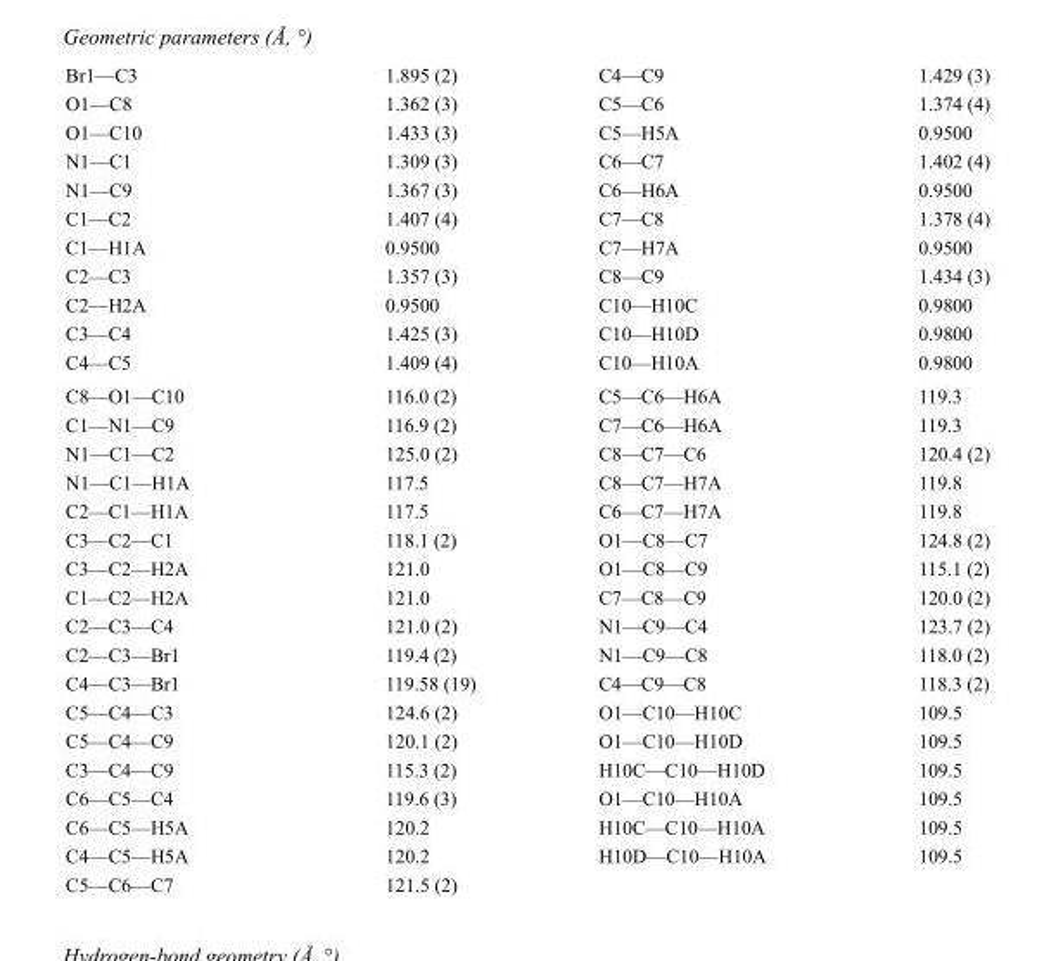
<table><tbody><tr><td>Br1—C3</td><td>1.895 (2)</td><td>C4—C9</td><td>1.429 (3)</td></tr><tr><td>O1—C8</td><td>1.362 (3)</td><td>C5—C6</td><td>1.374 (4)</td></tr><tr><td>O1—C10</td><td>1.433 (3)</td><td>C5—H5A</td><td>0.9500</td></tr><tr><td>N1—C1</td><td>1.309 (3)</td><td>C6—C7</td><td>1.402 (4)</td></tr><tr><td>N1—C9</td><td>1.367 (3)</td><td>C6—H6A</td><td>0.9500</td></tr><tr><td>C1—C2</td><td>1.407 (4)</td><td>C7—C8</td><td>1.378 (4)</td></tr><tr><td>C1—H1A</td><td>0.9500</td><td>C7—H7A</td><td>0.9500</td></tr><tr><td>C2—C3</td><td>1.357 (3)</td><td>C8—C9</td><td>1.434 (3)</td></tr><tr><td>C2—H2A</td><td>0.9500</td><td>C10—H10C</td><td>0.9800</td></tr><tr><td>C3—C4</td><td>1.425 (3)</td><td>C10—H10D</td><td>0.9800</td></tr><tr><td>C4—C5</td><td>1.409 (4)</td><td>C10—H10A</td><td>0.9800</td></tr><tr><td>C8—O1—C10</td><td>116.0 (2)</td><td>C5—C6—H6A</td><td>119.3</td></tr><tr><td>C1—N1—C9</td><td>116.9 (2)</td><td>C7—C6—H6A</td><td>119.3</td></tr><tr><td>N1—C1—C2</td><td>125.0 (2)</td><td>C8—C7—C6</td><td>120.4 (2)</td></tr><tr><td>N1—C1—H1A</td><td>117.5</td><td>C8—C7—H7A</td><td>119.8</td></tr><tr><td>C2—C1—H1A</td><td>117.5</td><td>C6—C7—H7A</td><td>119.8</td></tr><tr><td>C3—C2—C1</td><td>118.1 (2)</td><td>O1—C8—C7</td><td>124.8 (2)</td></tr><tr><td>C3—C2—H2A</td><td>121.0</td><td>O1—C8—C9</td><td>115.1 (2)</td></tr><tr><td>C1—C2—H2A</td><td>121.0</td><td>C7—C8—C9</td><td>120.0 (2)</td></tr><tr><td>C2—C3—C4</td><td>121.0 (2)</td><td>N1—C9—C4</td><td>123.7 (2)</td></tr><tr><td>C2—C3—Br1</td><td>119.4 (2)</td><td>N1—C9—C8</td><td>118.0 (2)</td></tr><tr><td>C4—C3—Br1</td><td>119.58 (19)</td><td>C4—C9—C8</td><td>118.3 (2)</td></tr><tr><td>C5—C4—C3</td><td>124.6 (2)</td><td>O1—C10—H10C</td><td>109.5</td></tr><tr><td>C5—C4—C9</td><td>120.1 (2)</td><td>O1—C10—H10D</td><td>109.5</td></tr><tr><td>C3—C4—C9</td><td>115.3 (2)</td><td>H10C—C10—H10D</td><td>109.5</td></tr><tr><td>C6—C5—C4</td><td>119.6 (3)</td><td>O1—C10—H10A</td><td>109.5</td></tr><tr><td>C6—C5—H5A</td><td>120.2</td><td>H10C—C10—H10A</td><td>109.5</td></tr><tr><td>C4—C5—H5A</td><td>120.2</td><td>H10D—C10—H10A</td><td>109.5</td></tr><tr><td>C5—C6—C7</td><td>121.5 (2)</td><td></td><td></td></tr></tbody></table>